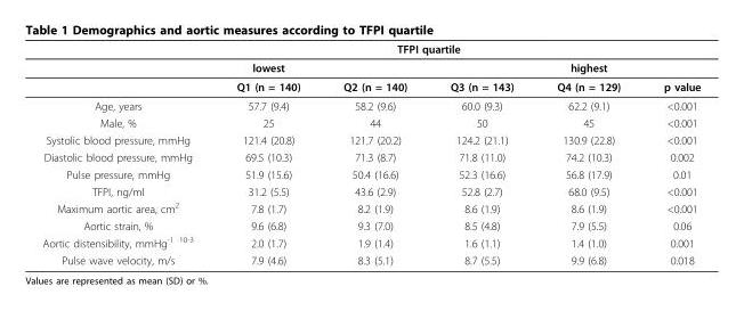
<table><thead><tr><td rowspan="3"></td><td colspan="4">TFPI quartile</td><td rowspan="3">p value</td></tr><tr><td rowspan="2">lowest Q1 (n = 140)</td><td rowspan="2">Q2 (n = 140)</td><td rowspan="2">Q3 (n = 143)</td><td rowspan="2">highest Q4 (n = 129)</td></tr><tr></tr></thead><tbody><tr><td>Age, years</td><td>57.7 (9.4)</td><td>58.2 (9.6)</td><td>60.0 (9.3)</td><td>62.2 (9.1)</td><td>&lt;0.001</td></tr><tr><td>Male, %</td><td>25</td><td>44</td><td>50</td><td>45</td><td>&lt;0.001</td></tr><tr><td>Systolic blood pressure, mmHg</td><td>121.4 (20.8)</td><td>121.7 (20.2)</td><td>124.2 (21.1)</td><td>130.9 (22.8)</td><td>&lt;0.001</td></tr><tr><td>Diastolic blood pressure, mmHg</td><td>69.5 (10.3)</td><td>71.3 (8.7)</td><td>71.8 (11.0)</td><td>74.2 (10.3)</td><td>0.002</td></tr><tr><td>Pulse pressure, mmHg</td><td>51.9 (15.6)</td><td>50.4 (16.6)</td><td>52.3 (16.6)</td><td>56.8 (17.9)</td><td>0.01</td></tr><tr><td>TFPI, ng/ml</td><td>31.2 (5.5)</td><td>43.6 (2.9)</td><td>52.8 (2.7)</td><td>68.0 (9.5)</td><td>&lt;0.001</td></tr><tr><td>Maximum aortic area, cm<sup>2</sup></td><td>7.8 (1.7)</td><td>8.2 (1.9)</td><td>8.6 (1.9)</td><td>8.6 (1.9)</td><td>&lt;0.001</td></tr><tr><td>Aortic strain, %</td><td>9.6 (6.8)</td><td>9.3 (7.0)</td><td>8.5 (4.8)</td><td>7.9 (5.5)</td><td>0.06</td></tr><tr><td>Aortic distensibility, mmHg<sup>-1 ·10-3</sup></td><td>2.0 (1.7)</td><td>1.9 (1.4)</td><td>1.6 (1.1)</td><td>1.4 (1.0)</td><td>0.001</td></tr><tr><td>Pulse wave velocity, m/s</td><td>7.9 (4.6)</td><td>8.3 (5.1)</td><td>8.7 (5.5)</td><td>9.9 (6.8)</td><td>0.018</td></tr></tbody></table>